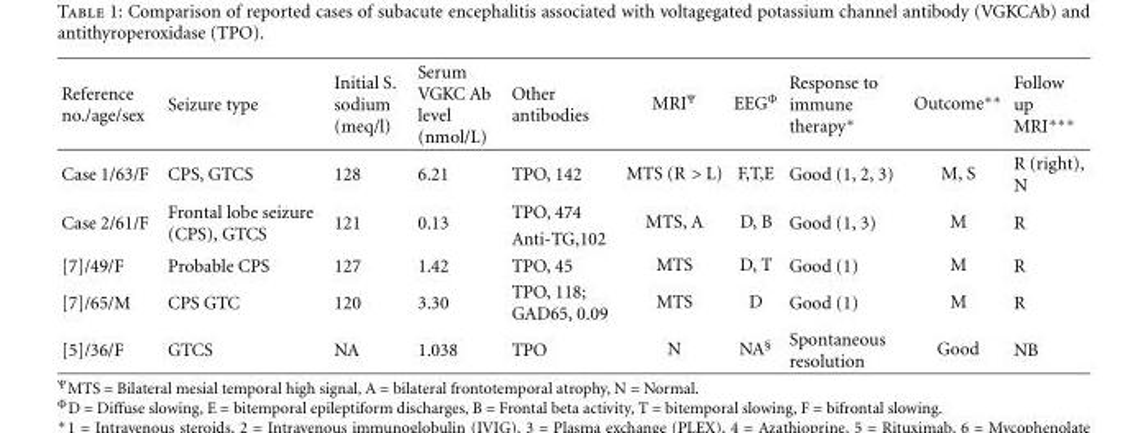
<table><thead><tr><td>Reference no./age/sex</td><td>Seizure type</td><td>Initial S. sodium (meq/l)</td><td>Serum VGKC Ab level (nmol/L)</td><td>Other antibodies</td><td>MRI<sup>Ψ</sup></td><td>EEG<sup>Φ</sup></td><td>Response to immune therapy∗</td><td>Outcome∗∗</td><td>Follow up MRI∗∗∗</td></tr></thead><tbody><tr><td>Case 1/63/F</td><td>CPS, GTCS</td><td>128</td><td>6.21</td><td>TPO, 142</td><td>MTS (R &gt; L)</td><td>F,T,E</td><td>Good (1, 2, 3)</td><td>M, S</td><td>R (right), N</td></tr><tr><td rowspan="2">Case 2/61/F</td><td rowspan="2">Frontal lobe seizure (CPS), GTCS</td><td rowspan="2">121</td><td rowspan="2">0.13</td><td>TPO, 474</td><td rowspan="2">MTS, A</td><td rowspan="2">D, B</td><td rowspan="2">Good (1, 3)</td><td rowspan="2">M</td><td rowspan="2">R</td></tr><tr><td>Anti-TG,102</td></tr><tr><td>[7]/49/F</td><td>Probable CPS</td><td>127</td><td>1.42</td><td>TPO, 45</td><td>MTS</td><td>D, T</td><td>Good (1)</td><td>M</td><td>R</td></tr><tr><td>[7]/65/M</td><td>CPS GTC</td><td>120</td><td>3.30</td><td>TPO, 118; GAD65, 0.09</td><td>MTS</td><td>D</td><td>Good (1)</td><td>M</td><td>R</td></tr><tr><td>[5]/36/F</td><td>GTCS</td><td>NA</td><td>1.038</td><td>TPO</td><td>N</td><td>NA<sup>§</sup></td><td>Spontaneous resolution</td><td>Good</td><td>NB</td></tr></tbody></table>